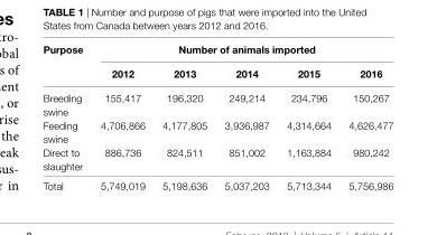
<table><thead><tr><td rowspan="2">Purpose</td><td colspan="5">Number of animals imported</td></tr><tr><td>2012</td><td>2013</td><td>2014</td><td>2015</td><td>2016</td></tr></thead><tbody><tr><td>Breeding swine</td><td>155,417</td><td>196,320</td><td>249,214</td><td>234,796</td><td>150,267</td></tr><tr><td>Feeding swine</td><td>4,706,866</td><td>4,177,805</td><td>3,936,987</td><td>4,314,664</td><td>4,626,477</td></tr><tr><td>Direct to slaughter</td><td>886,736</td><td>824,511</td><td>851,002</td><td>1,163,884</td><td>980,242</td></tr><tr><td>Total</td><td>5,749,019</td><td>5,198,636</td><td>5,037,203</td><td>5,713,344</td><td>5,756,986</td></tr></tbody></table>